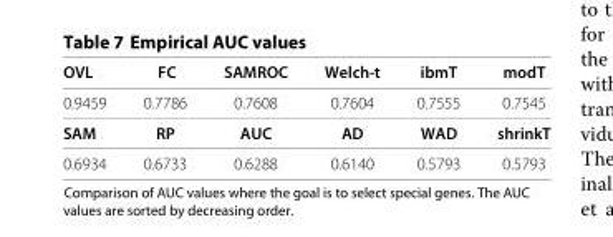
<table><thead><tr><td>OVL</td><td>FC</td><td>SAMROC</td><td>Welch-t</td><td>ibmT</td><td>modT</td></tr></thead><tbody><tr><td>0.9459</td><td>0.7786</td><td>0.7608</td><td>0.7604</td><td>0.7555</td><td>0.7545</td></tr><tr><td>SAM</td><td>RP</td><td>AUC</td><td>AD</td><td>WAD</td><td>shrinkT</td></tr><tr><td>0.6934</td><td>0.6733</td><td>0.6288</td><td>0.6140</td><td>0.5793</td><td>0.5793</td></tr></tbody></table>